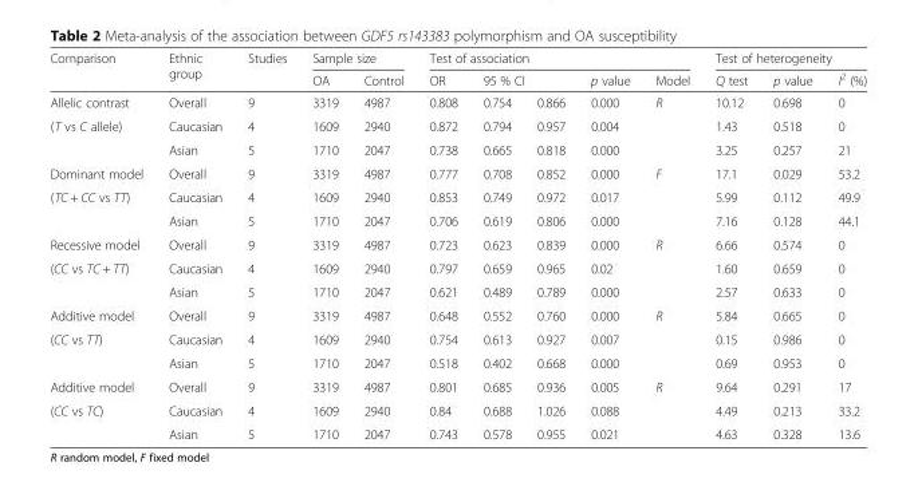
<table><thead><tr><td rowspan="3">Comparison Allelic contrast</td><td rowspan="3">Ethnic group Overall</td><td rowspan="3">Studies 9</td><td colspan="2">Sample size</td><td colspan="5">Test of association</td><td colspan="3">Test of heterogeneity</td></tr><tr><td rowspan="2">OA 3319</td><td rowspan="2">Control 4987</td><td rowspan="2">OR 0.808</td><td colspan="2">95 % CI</td><td rowspan="2">p value 0.000</td><td rowspan="2">Model R</td><td rowspan="2">Q test 10.12</td><td rowspan="2">p value 0.698</td><td rowspan="2">I<sup>2</sup> (%) 0</td></tr><tr><td>0.754</td><td>0.866</td></tr></thead><tbody><tr><td rowspan="2">(T vs C allele)</td><td>Caucasian</td><td>4</td><td>1609</td><td>2940</td><td>0.872</td><td>0.794</td><td>0.957</td><td>0.004</td><td></td><td>1.43</td><td>0.518</td><td>0</td></tr><tr><td>Asian</td><td>5</td><td>1710</td><td>2047</td><td>0.738</td><td>0.665</td><td>0.818</td><td>0.000</td><td></td><td>3.25</td><td>0.257</td><td>21</td></tr><tr><td>Dominant model</td><td>Overall</td><td>9</td><td>3319</td><td>4987</td><td>0.777</td><td>0.708</td><td>0.852</td><td>0.000</td><td>F</td><td>17.1</td><td>0.029</td><td>53.2</td></tr><tr><td rowspan="2">(TC + CC vs TT)</td><td>Caucasian</td><td>4</td><td>1609</td><td>2940</td><td>0.853</td><td>0.749</td><td>0.972</td><td>0.017</td><td></td><td>5.99</td><td>0.112</td><td>49.9</td></tr><tr><td>Asian</td><td>5</td><td>1710</td><td>2047</td><td>0.706</td><td>0.619</td><td>0.806</td><td>0.000</td><td></td><td>7.16</td><td>0.128</td><td>44.1</td></tr><tr><td>Recessive model</td><td>Overall</td><td>9</td><td>3319</td><td>4987</td><td>0.723</td><td>0.623</td><td>0.839</td><td>0.000</td><td>R</td><td>6.66</td><td>0.574</td><td>0</td></tr><tr><td rowspan="2">(CC vs TC + TT)</td><td>Caucasian</td><td>4</td><td>1609</td><td>2940</td><td>0.797</td><td>0.659</td><td>0.965</td><td>0.02</td><td></td><td>1.60</td><td>0.659</td><td>0</td></tr><tr><td>Asian</td><td>5</td><td>1710</td><td>2047</td><td>0.621</td><td>0.489</td><td>0.789</td><td>0.000</td><td></td><td>2.57</td><td>0.633</td><td>0</td></tr><tr><td>Additive model</td><td>Overall</td><td>9</td><td>3319</td><td>4987</td><td>0.648</td><td>0.552</td><td>0.760</td><td>0.000</td><td>R</td><td>5.84</td><td>0.665</td><td>0</td></tr><tr><td rowspan="2">(CC vs TT)</td><td>Caucasian</td><td>4</td><td>1609</td><td>2940</td><td>0.754</td><td>0.613</td><td>0.927</td><td>0.007</td><td></td><td>0.15</td><td>0.986</td><td>0</td></tr><tr><td>Asian</td><td>5</td><td>1710</td><td>2047</td><td>0.518</td><td>0.402</td><td>0.668</td><td>0.000</td><td></td><td>0.69</td><td>0.953</td><td>0</td></tr><tr><td>Additive model</td><td>Overall</td><td>9</td><td>3319</td><td>4987</td><td>0.801</td><td>0.685</td><td>0.936</td><td>0.005</td><td>R</td><td>9.64</td><td>0.291</td><td>17</td></tr><tr><td rowspan="2">(CC vs TC)</td><td>Caucasian</td><td>4</td><td>1609</td><td>2940</td><td>0.84</td><td>0.688</td><td>1.026</td><td>0.088</td><td></td><td>4.49</td><td>0.213</td><td>33.2</td></tr><tr><td>Asian</td><td>5</td><td>1710</td><td>2047</td><td>0.743</td><td>0.578</td><td>0.955</td><td>0.021</td><td></td><td>4.63</td><td>0.328</td><td>13.6</td></tr></tbody></table>